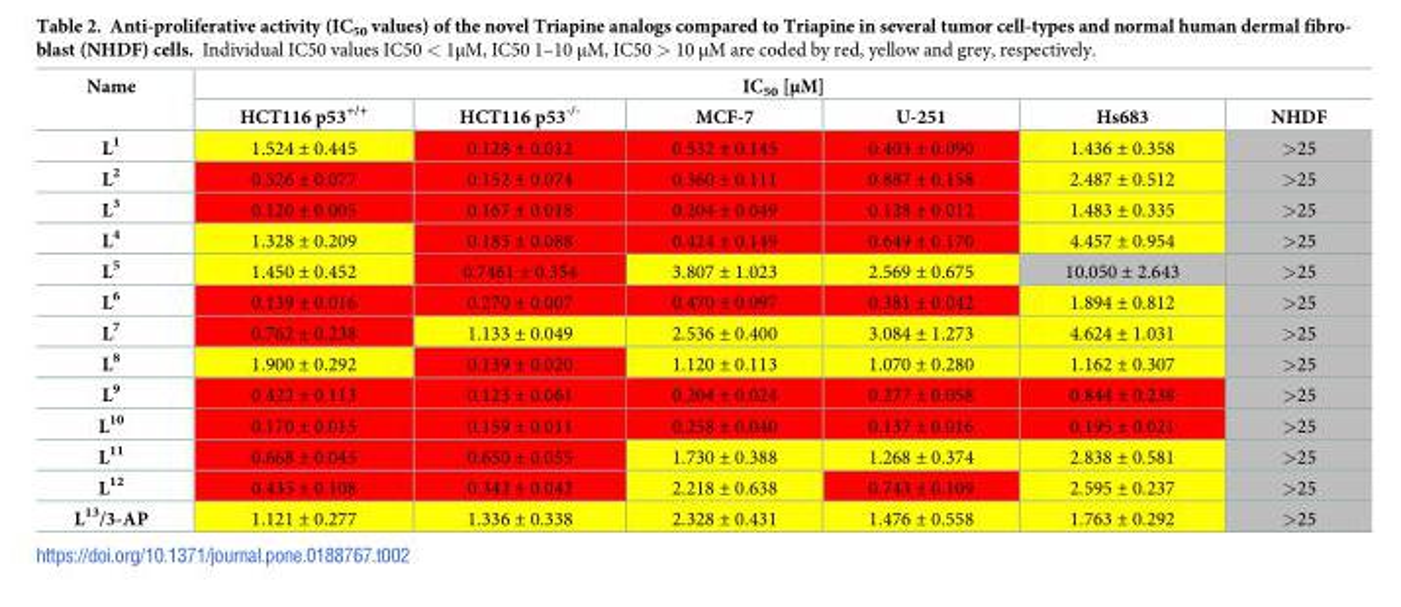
<table><thead><tr><td rowspan="2">Name</td><td colspan="6">IC<sub>50</sub> [μM]</td></tr><tr><td>HCT116 p53<sup>+/+</sup></td><td>HCT116 p53<sup>-/-</sup></td><td>MCF-7</td><td>U-251</td><td>Hs683</td><td>NHDF</td></tr></thead><tbody><tr><td>L<sup>1</sup></td><td>1.524 ± 0.445</td><td>0.128 ± 0.012</td><td>0.532 ± 0.145</td><td>0.403 ± 0.090</td><td>1.436 ± 0.358</td><td>&gt;25</td></tr><tr><td>L<sup>2</sup></td><td>0.526 ± 0.077</td><td>0.152 ± 0.074</td><td>0.360 ± 0.111</td><td>0.887 ± 0.158</td><td>2.487 ± 0.512</td><td>&gt;25</td></tr><tr><td>L<sup>3</sup></td><td>0.120 ± 0.005</td><td>0.167 ± 0.018</td><td>0.204 ± 0.049</td><td>0.128 ± 0.012</td><td>1.483 ± 0.335</td><td>&gt;25</td></tr><tr><td>L<sup>4</sup></td><td>1.328 ± 0.209</td><td>0.185 ± 0.088</td><td>0.424 ± 0.149</td><td>0.649 ± 0.170</td><td>4.457 ± 0.954</td><td>&gt;25</td></tr><tr><td>L<sup>5</sup></td><td>1.450 ± 0.452</td><td>0.7461 ± 0.354</td><td>3.807 ± 1.023</td><td>2.569 ± 0.675</td><td>10.050 ± 2.643</td><td>&gt;25</td></tr><tr><td>L<sup>6</sup></td><td>0.139 ± 0.016</td><td>0.270 ± 0.007</td><td>0.470 ± 0.097</td><td>0.381 ± 0.042</td><td>1.894 ± 0.812</td><td>&gt;25</td></tr><tr><td>L<sup>7</sup></td><td>0.762 ± 0.238</td><td>1.133 ± 0.049</td><td>2.536 ± 0.400</td><td>3.084 ± 1.273</td><td>4.624 ± 1.031</td><td>&gt;25</td></tr><tr><td>L<sup>8</sup></td><td>1.900 ± 0.292</td><td>0.139 ± 0.020</td><td>1.120 ± 0.113</td><td>1.070 ± 0.280</td><td>1.162 ± 0.307</td><td>&gt;25</td></tr><tr><td>L<sup>9</sup></td><td>0.422 ± 0.113</td><td>0.123 ± 0.061</td><td>0.204 ± 0.024</td><td>0.277 ± 0.058</td><td>0.844 ± 0.238</td><td>&gt;25</td></tr><tr><td>L<sup>10</sup></td><td>0.170 ± 0.015</td><td>0.159 ± 0.011</td><td>0.258 ± 0.040</td><td>0.137 ± 0.016</td><td>0.195 ± 0.021</td><td>&gt;25</td></tr><tr><td>L<sup>11</sup></td><td>0.668 ± 0.045</td><td>0.650 ± 0.055</td><td>1.730 ± 0.388</td><td>1.268 ± 0.374</td><td>2.838 ± 0.581</td><td>&gt;25</td></tr><tr><td>L<sup>12</sup></td><td>0.435 ± 0.108</td><td>0.342 ± 0.042</td><td>2.218 ± 0.638</td><td>0.743 ± 0.109</td><td>2.595 ± 0.237</td><td>&gt;25</td></tr><tr><td>L<sup>13</sup>/3-AP</td><td>1.121 ± 0.277</td><td>1.336 ± 0.338</td><td>2.328 ± 0.431</td><td>1.476 ± 0.558</td><td>1.763 ± 0.292</td><td>&gt;25</td></tr></tbody></table>